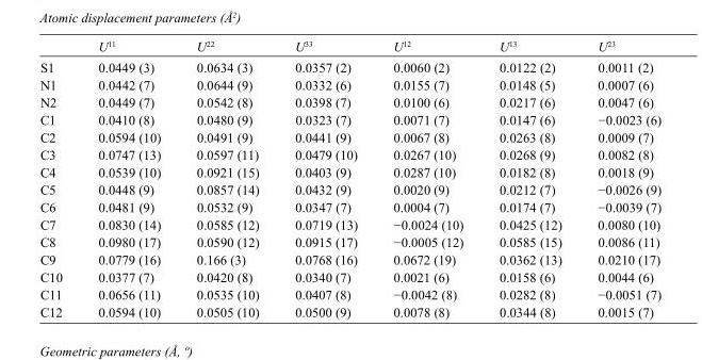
<table><thead><tr><td></td><td>U<sup>11</sup></td><td>U<sup>22</sup></td><td>U<sup>33</sup></td><td>U<sup>12</sup></td><td>U<sup>13</sup></td><td>U<sup>23</sup></td></tr></thead><tbody><tr><td>S1</td><td>0.0449 (3)</td><td>0.0634 (3)</td><td>0.0357 (2)</td><td>0.0060 (2)</td><td>0.0122 (2)</td><td>0.0011 (2)</td></tr><tr><td>N1</td><td>0.0442 (7)</td><td>0.0644 (9)</td><td>0.0332 (6)</td><td>0.0155 (7)</td><td>0.0148 (5)</td><td>0.0007 (6)</td></tr><tr><td>N2</td><td>0.0449 (7)</td><td>0.0542 (8)</td><td>0.0398 (7)</td><td>0.0100 (6)</td><td>0.0217 (6)</td><td>0.0047 (6)</td></tr><tr><td>C1</td><td>0.0410 (8)</td><td>0.0480 (9)</td><td>0.0323 (7)</td><td>0.0071 (7)</td><td>0.0147 (6)</td><td>−0.0023 (6)</td></tr><tr><td>C2</td><td>0.0594 (10)</td><td>0.0491 (9)</td><td>0.0441 (9)</td><td>0.0067 (8)</td><td>0.0263 (8)</td><td>0.0009 (7)</td></tr><tr><td>C3</td><td>0.0747 (13)</td><td>0.0597 (11)</td><td>0.0479 (10)</td><td>0.0267 (10)</td><td>0.0268 (9)</td><td>0.0082 (8)</td></tr><tr><td>C4</td><td>0.0539 (10)</td><td>0.0921 (15)</td><td>0.0403 (9)</td><td>0.0287 (10)</td><td>0.0182 (8)</td><td>0.0018 (9)</td></tr><tr><td>C5</td><td>0.0448 (9)</td><td>0.0857 (14)</td><td>0.0432 (9)</td><td>0.0020 (9)</td><td>0.0212 (7)</td><td>−0.0026 (9)</td></tr><tr><td>C6</td><td>0.0481 (9)</td><td>0.0532 (9)</td><td>0.0347 (7)</td><td>0.0004 (7)</td><td>0.0174 (7)</td><td>−0.0039 (7)</td></tr><tr><td>C7</td><td>0.0830 (14)</td><td>0.0585 (12)</td><td>0.0719 (13)</td><td>−0.0024 (10)</td><td>0.0425 (12)</td><td>0.0080 (10)</td></tr><tr><td>C8</td><td>0.0980 (17)</td><td>0.0590 (12)</td><td>0.0915 (17)</td><td>−0.0005 (12)</td><td>0.0585 (15)</td><td>0.0086 (11)</td></tr><tr><td>C9</td><td>0.0779 (16)</td><td>0.166 (3)</td><td>0.0768 (16)</td><td>0.0672 (19)</td><td>0.0362 (13)</td><td>0.0210 (17)</td></tr><tr><td>C10</td><td>0.0377 (7)</td><td>0.0420 (8)</td><td>0.0340 (7)</td><td>0.0021 (6)</td><td>0.0158 (6)</td><td>0.0044 (6)</td></tr><tr><td>C11</td><td>0.0656 (11)</td><td>0.0535 (10)</td><td>0.0407 (8)</td><td>−0.0042 (8)</td><td>0.0282 (8)</td><td>−0.0051 (7)</td></tr><tr><td>C12</td><td>0.0594 (10)</td><td>0.0505 (10)</td><td>0.0500 (9)</td><td>0.0078 (8)</td><td>0.0344 (8)</td><td>0.0015 (7)</td></tr></tbody></table>